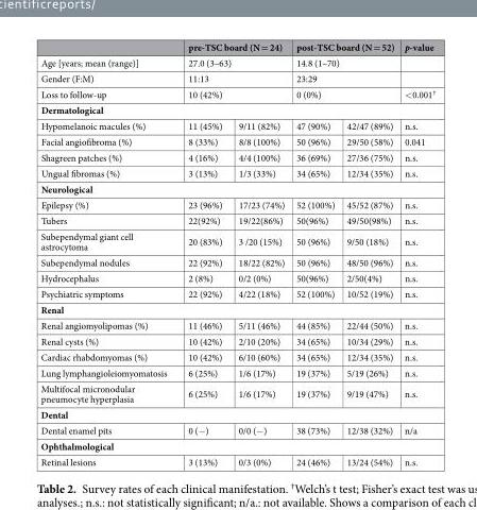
<table><thead><tr><td></td><td colspan="2">pre-TSC board (N = 24)</td><td colspan="2">post-TSC board (N = 52)</td><td>p-value</td></tr></thead><tbody><tr><td>Age [years; mean (range)]</td><td colspan="2">27.0 (3–63)</td><td colspan="2">14.8 (1–70)</td><td></td></tr><tr><td>Gender (F:M)</td><td colspan="2">11:13</td><td colspan="2">23:29</td><td></td></tr><tr><td>Loss to follow-up</td><td colspan="2">10 (42%)</td><td colspan="2">0 (0%)</td><td>&lt;0.001<sup>†</sup></td></tr><tr><td colspan="6">Dermatological</td></tr><tr><td>Hypomelanoic macules (%)</td><td>11 (45%)</td><td>9/11 (82%)</td><td>47 (90%)</td><td>42/47 (89%)</td><td>n.s.</td></tr><tr><td>Facial angiofibroma (%)</td><td>8 (33%)</td><td>8/8 (100%)</td><td>50 (96%)</td><td>29/50 (58%)</td><td>0.041</td></tr><tr><td>Shagreen patches (%)</td><td>4 (16%)</td><td>4/4 (100%)</td><td>36 (69%)</td><td>27/36 (75%)</td><td>n.s.</td></tr><tr><td>Ungual fibromas (%)</td><td>3 (13%)</td><td>1/3 (33%)</td><td>34 (65%)</td><td>12/34 (35%)</td><td>n.s.</td></tr><tr><td colspan="6">Neurological</td></tr><tr><td>Epilepsy (%)</td><td>23 (96%)</td><td>17/23 (74%)</td><td>52 (100%)</td><td>45/52 (87%)</td><td>n.s.</td></tr><tr><td>Tubers</td><td>22(92%)</td><td>19/22(86%)</td><td>50(96%)</td><td>49/50(98%)</td><td>n.s.</td></tr><tr><td>Subependymal giant cell astrocytoma</td><td>20 (83%)</td><td>3 /20 (15%)</td><td>50 (96%)</td><td>9/50 (18%)</td><td>n.s.</td></tr><tr><td>Subependymal nodules</td><td>22 (92%)</td><td>18/22 (82%)</td><td>50 (96%)</td><td>48/50 (96%)</td><td>n.s.</td></tr><tr><td>Hydrocephalus</td><td>2 (8%)</td><td>0/2 (0%)</td><td>50(96%)</td><td>2/50(4%)</td><td>n.s.</td></tr><tr><td>Psychiatric symptoms</td><td>22 (92%)</td><td>4/22 (18%)</td><td>52 (100%)</td><td>10/52 (19%)</td><td>n.s.</td></tr><tr><td colspan="6">Renal</td></tr><tr><td>Renal angiomyolipomas (%)</td><td>11 (46%)</td><td>5/11 (46%)</td><td>44 (85%)</td><td>22/44 (50%)</td><td>n.s.</td></tr><tr><td>Renal cysts (%)</td><td>10 (42%)</td><td>2/10 (20%)</td><td>34 (65%)</td><td>10/34 (29%)</td><td>n.s.</td></tr><tr><td>Cardiac rhabdomyomas (%)</td><td>10 (42%)</td><td>6/10 (60%)</td><td>34 (65%)</td><td>12/34 (35%)</td><td>n.s.</td></tr><tr><td>Lung lymphangioleiomyomatosis</td><td>6 (25%)</td><td>1/6 (17%)</td><td>19 (37%)</td><td>5/19 (26%)</td><td>n.s.</td></tr><tr><td>Multifocal micronodular pneumocyte hyperplasia</td><td>6 (25%)</td><td>1/6 (17%)</td><td>19 (37%)</td><td>9/19 (47%)</td><td>n.s.</td></tr><tr><td colspan="6">Dental</td></tr><tr><td>Dental enamel pits</td><td>0 (−)</td><td>0/0 (−)</td><td>38 (73%)</td><td>12/38 (32%)</td><td>n/a</td></tr><tr><td colspan="6">Ophthalmological</td></tr><tr><td>Retinal lesions</td><td>3 (13%)</td><td>0/3 (0%)</td><td>24 (46%)</td><td>13/24 (54%)</td><td>n.s.</td></tr></tbody></table>